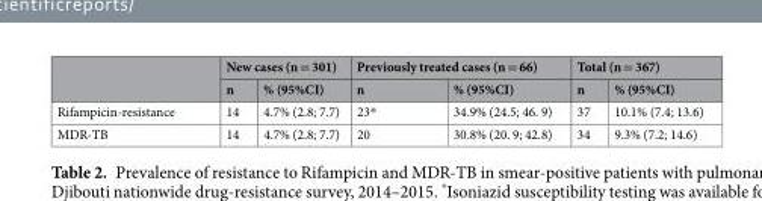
<table><thead><tr><td rowspan="2"></td><td colspan="2">New cases (n = 301)</td><td colspan="2">Previously treated cases (n = 66)</td><td colspan="2">Total (n = 367)</td></tr><tr><td>n</td><td>% (95%CI)</td><td>n</td><td>% (95%CI)</td><td>n</td><td>% (95%CI)</td></tr></thead><tbody><tr><td>Rifampicin-resistance</td><td>14</td><td>4.7% (2.8; 7.7)</td><td>23*</td><td>34.9% (24.5; 46. 9)</td><td>37</td><td>10.1% (7.4; 13.6)</td></tr><tr><td>MDR-TB</td><td>14</td><td>4.7% (2.8; 7.7)</td><td>20</td><td>30.8% (20. 9; 42.8)</td><td>34</td><td>9.3% (7.2; 14.6)</td></tr></tbody></table>